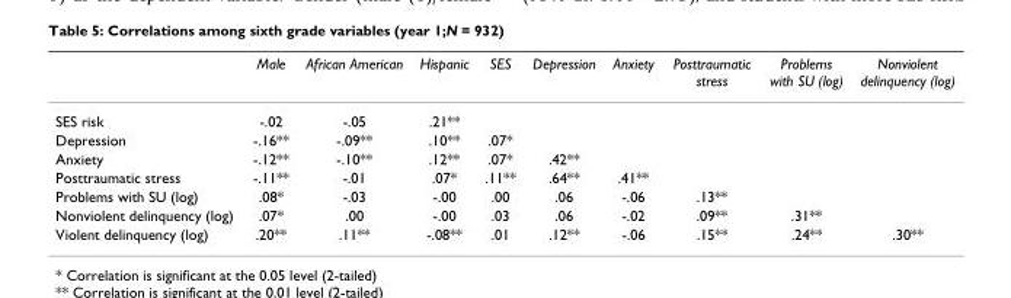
<table><thead><tr><td></td><td>Male</td><td>African American</td><td>Hispanic</td><td>SES</td><td>Depression</td><td>Anxiety</td><td>Posttraumatic stress</td><td>Problems with SU (log)</td><td>Nonviolent delinquency (log)</td></tr></thead><tbody><tr><td>SES risk</td><td>-.02</td><td>-.05</td><td>.21**</td><td></td><td></td><td></td><td></td><td></td><td></td></tr><tr><td>Depression</td><td>-.16**</td><td>-.09**</td><td>.10**</td><td>.07*</td><td></td><td></td><td></td><td></td><td></td></tr><tr><td>Anxiety</td><td>-.12**</td><td>-.10**</td><td>.12**</td><td>.07*</td><td>.42**</td><td></td><td></td><td></td><td></td></tr><tr><td>Posttraumatic stress</td><td>-.11**</td><td>-.01</td><td>.07*</td><td>.11**</td><td>.64**</td><td>.41**</td><td></td><td></td><td></td></tr><tr><td>Problems with SU (log)</td><td>.08*</td><td>-.03</td><td>-.00</td><td>.00</td><td>.06</td><td>-.06</td><td>.13**</td><td></td><td></td></tr><tr><td>Nonviolent delinquency (log)</td><td>.07*</td><td>.00</td><td>-.00</td><td>.03</td><td>.06</td><td>-.02</td><td>.09**</td><td>.31**</td><td></td></tr><tr><td>Violent delinquency (log)</td><td>.20**</td><td>.11**</td><td>-.08**</td><td>.01</td><td>.12**</td><td>-.06</td><td>.15**</td><td>.24**</td><td>.30**</td></tr></tbody></table>